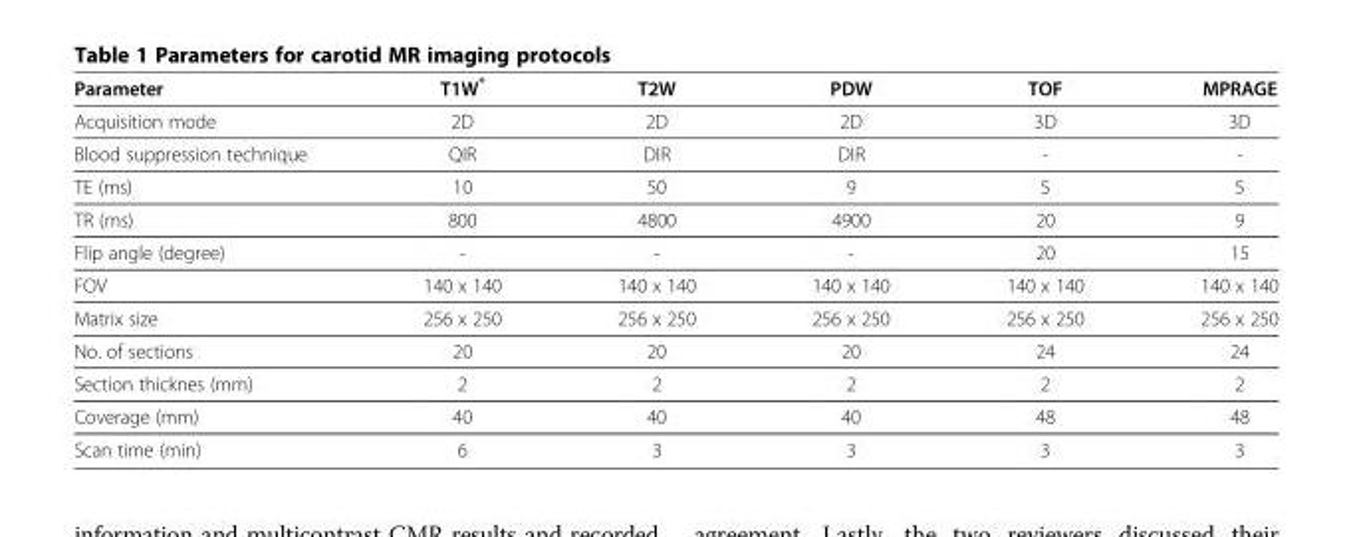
<table><thead><tr><td>Parameter</td><td>T1W*</td><td>T2W</td><td>PDW</td><td>TOF</td><td>MPRAGE</td></tr></thead><tbody><tr><td>Acquisition mode</td><td>2D</td><td>2D</td><td>2D</td><td>3D</td><td>3D</td></tr><tr><td>Blood suppression technique</td><td>QIR</td><td>DIR</td><td>DIR</td><td>-</td><td>-</td></tr><tr><td>TE (ms)</td><td>10</td><td>50</td><td>9</td><td>5</td><td>5</td></tr><tr><td>TR (ms)</td><td>800</td><td>4800</td><td>4900</td><td>20</td><td>9</td></tr><tr><td>Flip angle (degree)</td><td>-</td><td>-</td><td>-</td><td>20</td><td>15</td></tr><tr><td>FOV</td><td>140 x 140</td><td>140 x 140</td><td>140 x 140</td><td>140 x 140</td><td>140 x 140</td></tr><tr><td>Matrix size</td><td>256 x 250</td><td>256 x 250</td><td>256 x 250</td><td>256 x 250</td><td>256 x 250</td></tr><tr><td>No. of sections</td><td>20</td><td>20</td><td>20</td><td>24</td><td>24</td></tr><tr><td>Section thicknes (mm)</td><td>2</td><td>2</td><td>2</td><td>2</td><td>2</td></tr><tr><td>Coverage (mm)</td><td>40</td><td>40</td><td>40</td><td>48</td><td>48</td></tr><tr><td>Scan time (min)</td><td>6</td><td>3</td><td>3</td><td>3</td><td>3</td></tr></tbody></table>